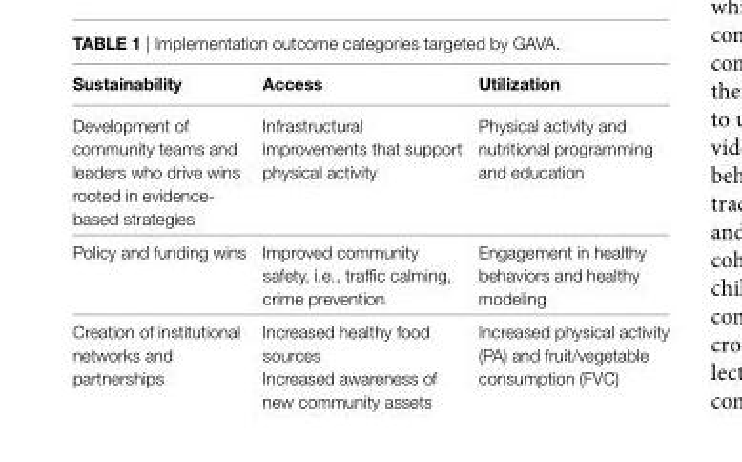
<table><thead><tr><td>Sustainability</td><td>access</td><td>utilization</td></tr></thead><tbody><tr><td>Development of community teams and leaders who drive wins rooted in evidence- based strategies</td><td>Infrastructural improvements that support physical activity</td><td>Physical activity and nutritional programming and education</td></tr><tr><td>Policy and funding wins</td><td>Improved community safety, i.e., traffic calming, crime prevention</td><td>Engagement in healthy behaviors and healthy modeling</td></tr><tr><td>Creation of institutional networks and partnerships</td><td>Increased healthy food sources Increased awareness of</td><td>Increased physical activity (PA) and fruit/vegetable consumption (FVC)</td></tr></tbody></table>